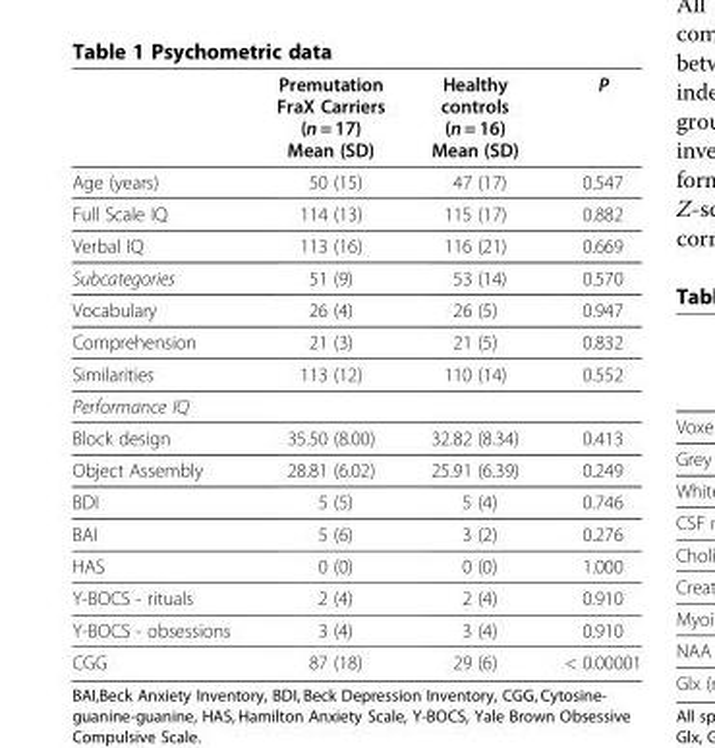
<table><thead><tr><td></td><td>Premutation FraX Carriers (n = 17) Mean (SD)</td><td>Healthy controls (n = 16) Mean (SD)</td><td>P</td></tr></thead><tbody><tr><td>Age (years)</td><td>50 (15)</td><td>47 (17)</td><td>0.547</td></tr><tr><td>Full Scale IQ</td><td>114 (13)</td><td>115 (17)</td><td>0.882</td></tr><tr><td>Verbal IQ</td><td>113 (16)</td><td>116 (21)</td><td>0.669</td></tr><tr><td>Subcategories</td><td>51 (9)</td><td>53 (14)</td><td>0.570</td></tr><tr><td>Vocabulary</td><td>26 (4)</td><td>26 (5)</td><td>0.947</td></tr><tr><td>Comprehension</td><td>21 (3)</td><td>21 (5)</td><td>0.832</td></tr><tr><td>Similarities</td><td>113 (12)</td><td>110 (14)</td><td>0.552</td></tr><tr><td colspan="4">Performance IQ</td></tr><tr><td>Block design</td><td>35.50 (8.00)</td><td>32.82 (8.34)</td><td>0.413</td></tr><tr><td>Object Assembly</td><td>28.81 (6.02)</td><td>25.91 (6.39)</td><td>0.249</td></tr><tr><td>BDI</td><td>5 (5)</td><td>5 (4)</td><td>0.746</td></tr><tr><td>BAI</td><td>5 (6)</td><td>3 (2)</td><td>0.276</td></tr><tr><td>HAS</td><td>0 (0)</td><td>0 (0)</td><td>1.000</td></tr><tr><td>Y-BOCS - rituals</td><td>2 (4)</td><td>2 (4)</td><td>0.910</td></tr><tr><td>Y-BOCS - obsessions</td><td>3 (4)</td><td>3 (4)</td><td>0.910</td></tr><tr><td>CGG</td><td>87 (18)</td><td>29 (6)</td><td>&lt; 0.00001</td></tr></tbody></table>